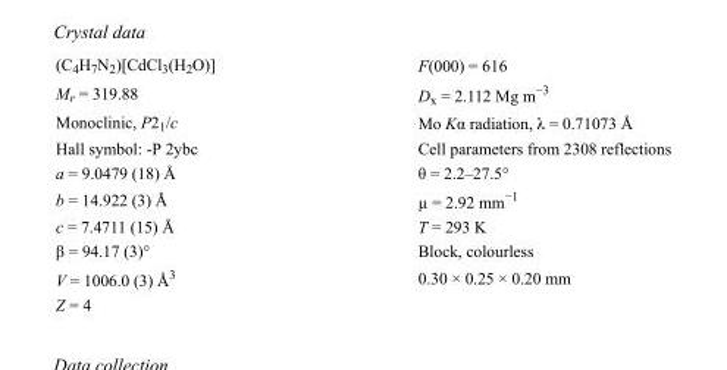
<table><tbody><tr><td>(C<sub>4</sub>H<sub>7</sub>N<sub>2</sub>)[CdCl<sub>3</sub>(H<sub>2</sub>O)]</td><td>F(000) = 616</td></tr><tr><td>M<sub>r</sub> = 319.88</td><td>D<sub>x</sub> = 2.112 Mg m<sup>−3</sup></td></tr><tr><td>Monoclinic, P2<sub>1</sub>/c</td><td>Mo Kα radiation, λ = 0.71073 Å</td></tr><tr><td>Hall symbol: -P 2ybc</td><td>Cell parameters from 2308 reflections</td></tr><tr><td>a = 9.0479 (18) Å</td><td>θ = 2.2–27.5°</td></tr><tr><td>b = 14.922 (3) Å</td><td>µ = 2.92 mm<sup>−1</sup></td></tr><tr><td>c = 7.4711 (15) Å</td><td>T = 293 K</td></tr><tr><td>β = 94.17 (3)°</td><td>Block, colourless</td></tr><tr><td>V = 1006.0 (3) Å<sup>3</sup></td><td>0.30 × 0.25 × 0.20 mm</td></tr><tr><td>Z = 4</td><td></td></tr></tbody></table>